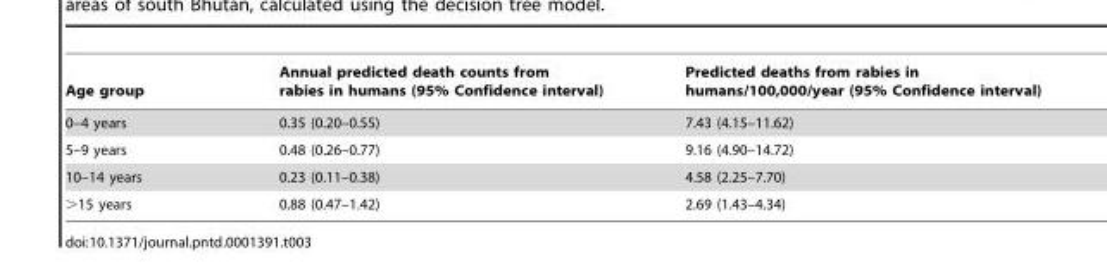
<table><thead><tr><td>Age group</td><td>Annual predicted death counts from rabies in humans (95% Confidence interval)</td><td>Predicted deaths from rabies in humans/100,000/year (95% Confidence interval)</td></tr></thead><tbody><tr><td>0–4 years</td><td>0.35 (0.20–0.55)</td><td>7.43 (4.15–11.62)</td></tr><tr><td>5–9 years</td><td>0.48 (0.26–0.77)</td><td>9.16 (4.90–14.72)</td></tr><tr><td>10–14 years</td><td>0.23 (0.11–0.38)</td><td>4.58 (2.25–7.70)</td></tr><tr><td>&gt;15 years</td><td>0.88 (0.47–1.42)</td><td>2.69 (1.43–4.34)</td></tr></tbody></table>